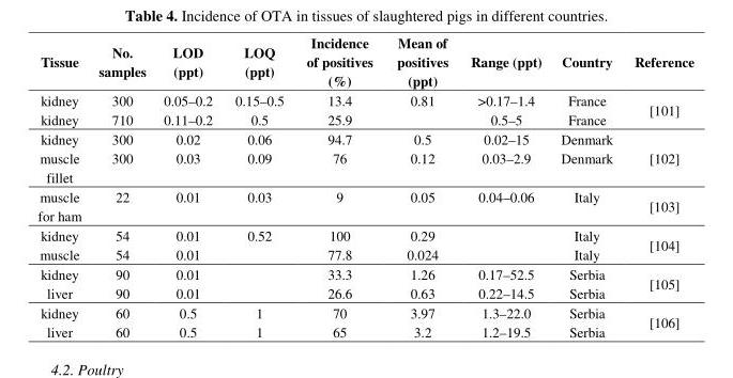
<table><thead><tr><td>Tissue</td><td>No. samples</td><td>LOD (ppt)</td><td>LOQ (ppt)</td><td>Incidence of positives (%)</td><td>Mean of positives (ppt)</td><td>Range (ppt)</td><td>Country</td><td>Reference</td></tr></thead><tbody><tr><td>kidney</td><td>300</td><td>0.05–0.2</td><td>0.15–0.5</td><td>13.4</td><td>0.81</td><td>&gt;0.17–1.4</td><td>France</td><td rowspan="2">[101]</td></tr><tr><td>kidney</td><td>710</td><td>0.11–0.2</td><td>0.5</td><td>25.9</td><td></td><td>0.5–5</td><td>France</td></tr><tr><td>kidney</td><td>300</td><td>0.02</td><td>0.06</td><td>94.7</td><td>0.5</td><td>0.02–15</td><td>Denmark</td><td rowspan="2">[102]</td></tr><tr><td>muscle fillet</td><td>300</td><td>0.03</td><td>0.09</td><td>76</td><td>0.12</td><td>0.03–2.9</td><td>Denmark</td></tr><tr><td>muscle for ham</td><td>22</td><td>0.01</td><td>0.03</td><td>9</td><td>0.05</td><td>0.04–0.06</td><td>Italy</td><td>[103]</td></tr><tr><td>kidney</td><td>54</td><td>0.01</td><td>0.52</td><td>100</td><td>0.29</td><td></td><td>Italy</td><td rowspan="2">[104]</td></tr><tr><td>muscle</td><td>54</td><td>0.01</td><td></td><td>77.8</td><td>0.024</td><td></td><td>Italy</td></tr><tr><td>kidney</td><td>90</td><td>0.01</td><td></td><td>33.3</td><td>1.26</td><td>0.17–52.5</td><td>Serbia</td><td rowspan="2">[105]</td></tr><tr><td>liver</td><td>90</td><td>0.01</td><td></td><td>26.6</td><td>0.63</td><td>0.22–14.5</td><td>Serbia</td></tr><tr><td>kidney</td><td>60</td><td>0.5</td><td>1</td><td>70</td><td>3.97</td><td>1.3–22.0</td><td>Serbia</td><td rowspan="2">[106]</td></tr><tr><td>liver</td><td>60</td><td>0.5</td><td>1</td><td>65</td><td>3.2</td><td>1.2–19.5</td><td>Serbia</td></tr></tbody></table>